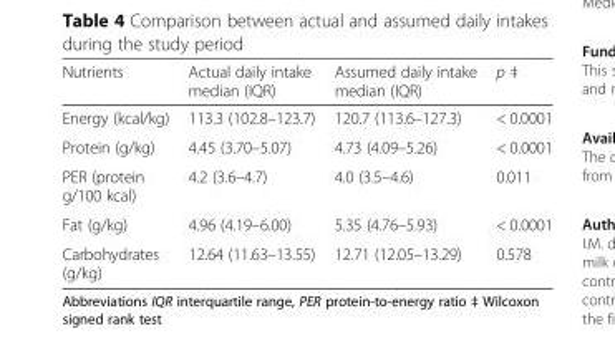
<table><thead><tr><td>Nutrients</td><td>Actual daily intake median (IQR)</td><td>Assumed daily intake median (IQR)</td><td>p ‡</td></tr></thead><tbody><tr><td>Energy (kcal/kg)</td><td>113.3 (102.8–123.7)</td><td>120.7 (113.6–127.3)</td><td>&lt; 0.0001</td></tr><tr><td>Protein (g/kg)</td><td>4.45 (3.70–5.07)</td><td>4.73 (4.09–5.26)</td><td>&lt; 0.0001</td></tr><tr><td>PER (protein g/100 kcal)</td><td>4.2 (3.6–4.7)</td><td>4.0 (3.5–4.6)</td><td>0.011</td></tr><tr><td>Fat (g/kg)</td><td>4.96 (4.19–6.00)</td><td>5.35 (4.76–5.93)</td><td>&lt; 0.0001</td></tr><tr><td>Carbohydrates (g/kg)</td><td>12.64 (11.63–13.55)</td><td>12.71 (12.05–13.29)</td><td>0.578</td></tr></tbody></table>